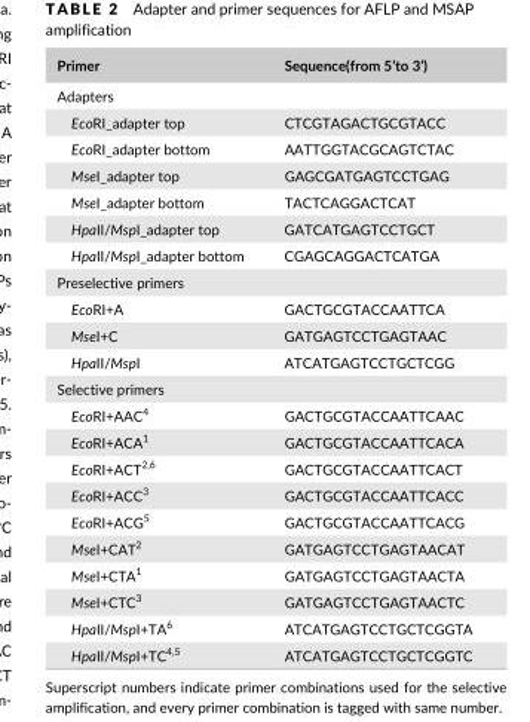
<table><thead><tr><td>Primer</td><td>Sequence(from 5’to 3’)</td></tr></thead><tbody><tr><td colspan="2">Adapters</td></tr><tr><td>EcoRI_adapter top</td><td>CTCGTAGACTGCGTACC</td></tr><tr><td>EcoRI_adapter bottom</td><td>AATTGGTACGCAGTCTAC</td></tr><tr><td>MseI_adapter top</td><td>GAGCGATGAGTCCTGAG</td></tr><tr><td>MseI_adapter bottom</td><td>TACTCAGGACTCAT</td></tr><tr><td>HpaII/MspI_adapter top</td><td>GATCATGAGTCCTGCT</td></tr><tr><td>HpaII/MspI_adapter bottom</td><td>CGAGCAGGACTCATGA</td></tr><tr><td colspan="2">Preselective primers</td></tr><tr><td>EcoRI+A</td><td>GACTGCGTACCAATTCA</td></tr><tr><td>MseI+C</td><td>GATGAGTCCTGAGTAAC</td></tr><tr><td>HpaII/MspI</td><td>ATCATGAGTCCTGCTCGG</td></tr><tr><td colspan="2">Selective primers</td></tr><tr><td>EcoRI+AAC<sup>4</sup></td><td>GACTGCGTACCAATTCAAC</td></tr><tr><td>EcoRI+ACA<sup>1</sup></td><td>GACTGCGTACCAATTCACA</td></tr><tr><td>EcoRI+ACT<sup>2,6</sup></td><td>GACTGCGTACCAATTCACT</td></tr><tr><td>EcoRI+ACC<sup>3</sup></td><td>GACTGCGTACCAATTCACC</td></tr><tr><td>EcoRI+ACG<sup>5</sup></td><td>GACTGCGTACCAATTCACG</td></tr><tr><td>MseI+CAT<sup>2</sup></td><td>GATGAGTCCTGAGTAACAT</td></tr><tr><td>MseI+CTA<sup>1</sup></td><td>GATGAGTCCTGAGTAACTA</td></tr><tr><td>MseI+CTC<sup>3</sup></td><td>GATGAGTCCTGAGTAACTC</td></tr><tr><td>HpaII/MspI+TA<sup>6</sup></td><td>ATCATGAGTCCTGCTCGGTA</td></tr><tr><td>HpaII/MspI+TC<sup>4,5</sup></td><td>ATCATGAGTCCTGCTCGGTC</td></tr></tbody></table>